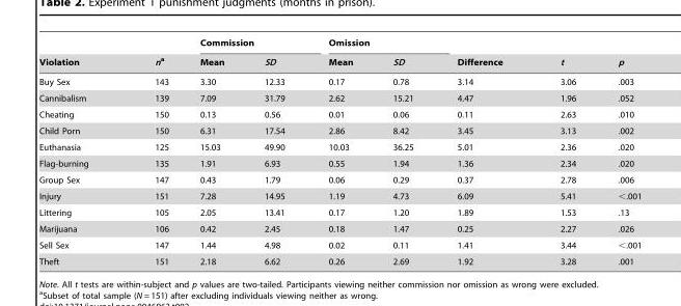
<table><thead><tr><td rowspan="2">Violation</td><td rowspan="2">na</td><td colspan="2">Commission</td><td colspan="2">Omission</td><td rowspan="2">Difference</td><td rowspan="2">t</td><td rowspan="2">p</td></tr><tr><td>Mean</td><td>SD</td><td>Mean</td><td>SD</td></tr></thead><tbody><tr><td>Buy Sex</td><td>143</td><td>3.30</td><td>12.33</td><td>0.17</td><td>0.78</td><td>3.14</td><td>3.06</td><td>.003</td></tr><tr><td>Cannibalism</td><td>139</td><td>7.09</td><td>31.79</td><td>2.62</td><td>15.21</td><td>4.47</td><td>1.96</td><td>.052</td></tr><tr><td>Cheating</td><td>150</td><td>0.13</td><td>0.56</td><td>0.01</td><td>0.06</td><td>0.11</td><td>2.63</td><td>.010</td></tr><tr><td>Child Porn</td><td>150</td><td>6.31</td><td>17.54</td><td>2.86</td><td>8.42</td><td>3.45</td><td>3.13</td><td>.002</td></tr><tr><td>Euthanasia</td><td>125</td><td>15.03</td><td>49.90</td><td>10.03</td><td>36.25</td><td>5.01</td><td>2.36</td><td>.020</td></tr><tr><td>Flag-burning</td><td>135</td><td>1.91</td><td>6.93</td><td>0.55</td><td>1.94</td><td>1.36</td><td>2.34</td><td>.020</td></tr><tr><td>Group Sex</td><td>147</td><td>0.43</td><td>1.79</td><td>0.06</td><td>0.29</td><td>0.37</td><td>2.78</td><td>.006</td></tr><tr><td>Injury</td><td>151</td><td>7.28</td><td>14.95</td><td>1.19</td><td>4.73</td><td>6.09</td><td>5.41</td><td>&lt;.001</td></tr><tr><td>Littering</td><td>105</td><td>2.05</td><td>13.41</td><td>0.17</td><td>1.20</td><td>1.89</td><td>1.53</td><td>.13</td></tr><tr><td>Marijuana</td><td>106</td><td>0.42</td><td>2.45</td><td>0.18</td><td>1.47</td><td>0.25</td><td>2.27</td><td>.026</td></tr><tr><td>Sell Sex</td><td>147</td><td>1.44</td><td>4.98</td><td>0.02</td><td>0.11</td><td>1.41</td><td>3.44</td><td>&lt;.001</td></tr><tr><td>Theft</td><td>151</td><td>2.18</td><td>6.62</td><td>0.26</td><td>2.69</td><td>1.92</td><td>3.28</td><td>.001</td></tr></tbody></table>